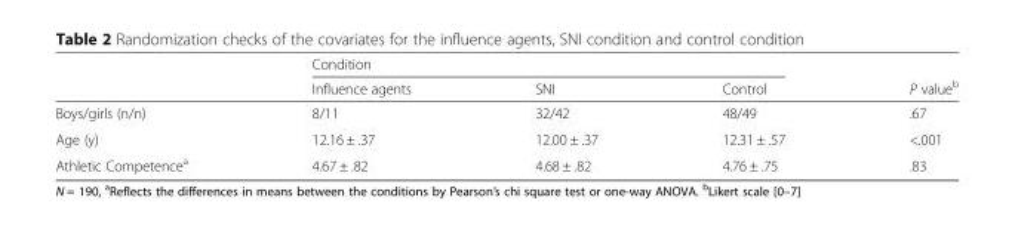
<table><thead><tr><td rowspan="2"></td><td colspan="3">Condition</td><td rowspan="2">P value<sup>b</sup></td></tr><tr><td>Influence agents</td><td>SNI</td><td>Control</td></tr></thead><tbody><tr><td>Boys/girls (n/n)</td><td>8/11</td><td>32/42</td><td>48/49</td><td>.67</td></tr><tr><td>Age (y)</td><td>12.16 ± .37</td><td>12.00 ± .37</td><td>12.31 ± .57</td><td>&lt;.001</td></tr><tr><td>Athletic Competence<sup>a</sup></td><td>4.67 ± .82</td><td>4.68 ± .82</td><td>4.76 ± .75</td><td>.83</td></tr></tbody></table>